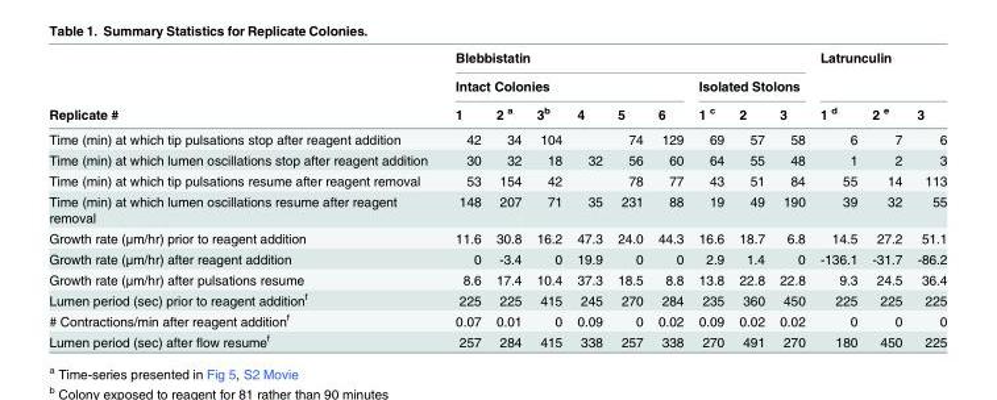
<table><thead><tr><td rowspan="3">Replicate #</td><td colspan="9">Blebbistatin</td><td colspan="3">Latrunculin</td></tr><tr><td colspan="6">Intact Colonies</td><td colspan="4">Isolated Stolons</td><td rowspan="2">2 <sup>e</sup></td><td rowspan="2">3</td></tr><tr><td>1</td><td>2 <sup>a</sup></td><td>3<sup>b</sup></td><td>4</td><td>5</td><td>6</td><td>1 <sup>c</sup></td><td>2</td><td>3</td><td>1 <sup>d</sup></td></tr></thead><tbody><tr><td>Time (min) at which tip pulsations stop after reagent addition</td><td>42</td><td>34</td><td>104</td><td></td><td>74</td><td>129</td><td>69</td><td>57</td><td>58</td><td>6</td><td>7</td><td>6</td></tr><tr><td>Time (min) at which lumen oscillations stop after reagent addition</td><td>30</td><td>32</td><td>18</td><td>32</td><td>56</td><td>60</td><td>64</td><td>55</td><td>48</td><td>1</td><td>2</td><td>3</td></tr><tr><td>Time (min) at which tip pulsations resume after reagent removal</td><td>53</td><td>154</td><td>42</td><td></td><td>78</td><td>77</td><td>43</td><td>51</td><td>84</td><td>55</td><td>14</td><td>113</td></tr><tr><td>Time (min) at which lumen oscillations resume after reagent removal</td><td>148</td><td>207</td><td>71</td><td>35</td><td>231</td><td>88</td><td>19</td><td>49</td><td>190</td><td>39</td><td>32</td><td>55</td></tr><tr><td>Growth rate (μm/hr) prior to reagent addition</td><td>11.6</td><td>30.8</td><td>16.2</td><td>47.3</td><td>24.0</td><td>44.3</td><td>16.6</td><td>18.7</td><td>6.8</td><td>14.5</td><td>27.2</td><td>51.1</td></tr><tr><td>Growth rate (μm/hr) after reagent addition</td><td>0</td><td>-3.4</td><td>0</td><td>19.9</td><td>0</td><td>0</td><td>2.9</td><td>1.4</td><td>0</td><td>-136.1</td><td>-31.7</td><td>-86.2</td></tr><tr><td>Growth rate (μm/hr) after pulsations resume</td><td>8.6</td><td>17.4</td><td>10.4</td><td>37.3</td><td>18.5</td><td>8.8</td><td>13.8</td><td>22.8</td><td>22.8</td><td>9.3</td><td>24.5</td><td>36.4</td></tr><tr><td>Lumen period (sec) prior to reagent addition<sup>f</sup></td><td>225</td><td>225</td><td>415</td><td>245</td><td>270</td><td>284</td><td>235</td><td>360</td><td>450</td><td>225</td><td>225</td><td>225</td></tr><tr><td># Contractions/min after reagent addition<sup>f</sup></td><td>0.07</td><td>0.01</td><td>0</td><td>0.09</td><td>0</td><td>0.02</td><td>0.09</td><td>0.02</td><td>0.02</td><td>0</td><td>0</td><td>0</td></tr><tr><td>Lumen period (sec) after flow resume<sup>f</sup></td><td>257</td><td>284</td><td>415</td><td>338</td><td>257</td><td>338</td><td>270</td><td>491</td><td>270</td><td>180</td><td>450</td><td>225</td></tr></tbody></table>